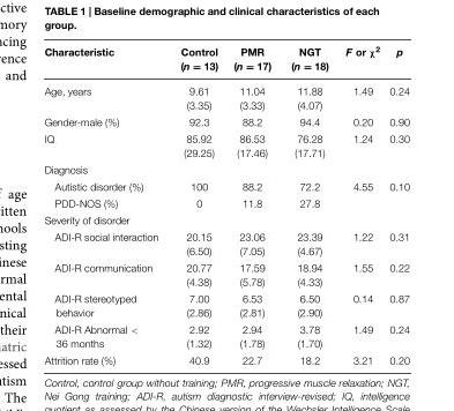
<table><thead><tr><td>Characteristic</td><td>Control (n = 13)</td><td>PMR (n = 17)</td><td>NGT (n = 18)</td><td>F or χ<sup>2</sup></td><td>p</td></tr></thead><tbody><tr><td>Age, years</td><td>9.61 (3.35)</td><td>11.04 (3.33)</td><td>11.88 (4.07)</td><td>1.49</td><td>0.24</td></tr><tr><td>Gender-male (%)</td><td>92.3</td><td>88.2</td><td>94.4</td><td>0.20</td><td>0.90</td></tr><tr><td>IQ</td><td>85.92 (29.25)</td><td>86.53 (17.46)</td><td>76.28 (17.71)</td><td>1.24</td><td>0.30</td></tr><tr><td colspan="6">Diagnosis</td></tr><tr><td>Autistic disorder (%)</td><td>100</td><td>88.2</td><td>72.2</td><td>4.55</td><td>0.10</td></tr><tr><td>PDD-NOS (%)</td><td>0</td><td>11.8</td><td>27.8</td><td></td><td></td></tr><tr><td colspan="6">Severity of disorder</td></tr><tr><td>ADI-R social interaction</td><td>20.15 (6.50)</td><td>23.06 (7.05)</td><td>23.39 (4.67)</td><td>1.22</td><td>0.31</td></tr><tr><td>ADI-R communication</td><td>20.77 (4.38)</td><td>17.59 (5.78)</td><td>18.94 (4.33)</td><td>1.55</td><td>0.22</td></tr><tr><td>ADI-R stereotyped behavior</td><td>7.00 (2.86)</td><td>6.53 (2.81)</td><td>6.50 (2.90)</td><td>0.14</td><td>0.87</td></tr><tr><td>ADI-R Abnormal &lt; 36 months</td><td>2.92 (1.32)</td><td>2.94 (1.78)</td><td>3.78 (1.70)</td><td>1.49</td><td>0.24</td></tr><tr><td>Attrition rate (%)</td><td>40.9</td><td>22.7</td><td>18.2</td><td>3.21</td><td>0.20</td></tr></tbody></table>